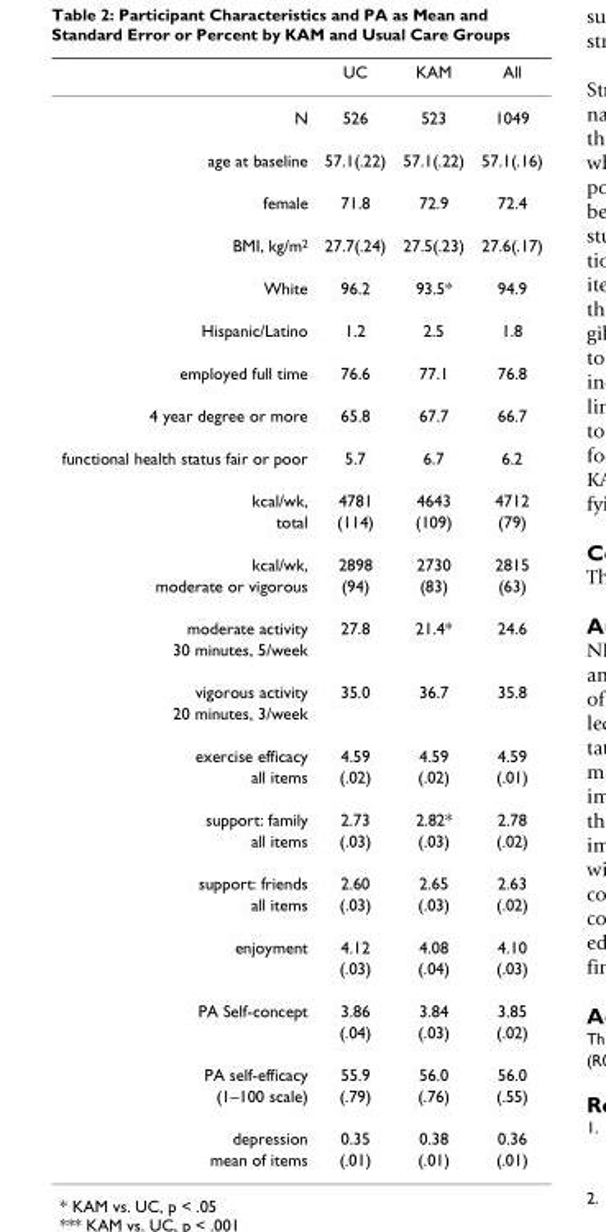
<table><thead><tr><td></td><td>UC</td><td>KAM</td><td>All</td></tr></thead><tbody><tr><td>N</td><td>526</td><td>523</td><td>1049</td></tr><tr><td>age at baseline</td><td>57.1(.22)</td><td>57.1(.22)</td><td>57.1(.16)</td></tr><tr><td>female</td><td>71.8</td><td>72.9</td><td>72.4</td></tr><tr><td>BMI, kg/m<sup>2</sup></td><td>27.7(.24)</td><td>27.5(.23)</td><td>27.6(.17)</td></tr><tr><td>White</td><td>96.2</td><td>93.5*</td><td>94.9</td></tr><tr><td>Hispanic/Latino</td><td>1.2</td><td>2.5</td><td>1.8</td></tr><tr><td>employed full time</td><td>76.6</td><td>77.1</td><td>76.8</td></tr><tr><td>4 year degree or more</td><td>65.8</td><td>67.7</td><td>66.7</td></tr><tr><td>functional health status fair or poor</td><td>5.7</td><td>6.7</td><td>6.2</td></tr><tr><td>kcal/wk,</td><td>4781</td><td>4643</td><td>4712</td></tr><tr><td>total</td><td>(114)</td><td>(109)</td><td>(79)</td></tr><tr><td>kcal/wk,</td><td>2898</td><td>2730</td><td>2815</td></tr><tr><td>moderate or vigorous</td><td>(94)</td><td>(83)</td><td>(63)</td></tr><tr><td>moderate activity</td><td>27.8</td><td>21.4*</td><td>24.6</td></tr><tr><td colspan="4">30 minutes, 5/week</td></tr><tr><td>vigorous activity</td><td>35.0</td><td>36.7</td><td>35.8</td></tr><tr><td colspan="4">20 minutes, 3/week</td></tr><tr><td>exercise efficacy</td><td>4.59</td><td>4.59</td><td>4.59</td></tr><tr><td>all items</td><td>(.02)</td><td>(.02)</td><td>(.01)</td></tr><tr><td>support: family</td><td>2.73</td><td>2.82*</td><td>2.78</td></tr><tr><td>all items</td><td>(.03)</td><td>(.03)</td><td>(.02)</td></tr><tr><td>support: friends</td><td>2.60</td><td>2.65</td><td>2.63</td></tr><tr><td>all items</td><td>(.03)</td><td>(.03)</td><td>(.02)</td></tr><tr><td rowspan="2">enjoyment</td><td>4.12</td><td>4.08</td><td>4.10</td></tr><tr><td>(.03)</td><td>(.04)</td><td>(.03)</td></tr><tr><td rowspan="2">PA Self-concept</td><td>3.86</td><td>3.84</td><td>3.85</td></tr><tr><td>(.04)</td><td>(.03)</td><td>(.02)</td></tr><tr><td>PA self-efficacy</td><td>55.9</td><td>56.0</td><td>56.0</td></tr><tr><td>(1–100 scale)</td><td>(.79)</td><td>(.76)</td><td>(.55)</td></tr><tr><td>depression</td><td>0.35</td><td>0.38</td><td>0.36</td></tr><tr><td>mean of items</td><td>(.01)</td><td>(.01)</td><td>(.01)</td></tr></tbody></table>